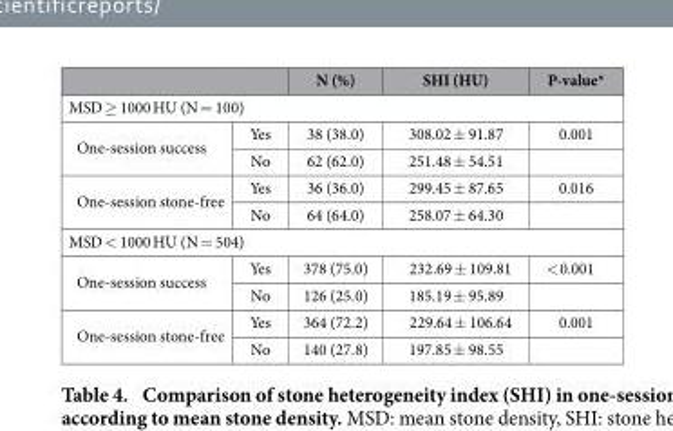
<table><thead><tr><td></td><td></td><td>N (%)</td><td>SHI (HU)</td><td>P-value*</td></tr></thead><tbody><tr><td colspan="5">MSD ≥ 1000 HU (N = 100)</td></tr><tr><td rowspan="2">One-session success</td><td>Yes</td><td>38 (38.0)</td><td>308.02 ± 91.87</td><td>0.001</td></tr><tr><td>No</td><td>62 (62.0)</td><td>251.48 ± 54.51</td><td></td></tr><tr><td rowspan="2">One-session stone-free</td><td>Yes</td><td>36 (36.0)</td><td>299.45 ± 87.65</td><td>0.016</td></tr><tr><td>No</td><td>64 (64.0)</td><td>258.07 ± 64.30</td><td></td></tr><tr><td colspan="5">MSD &lt; 1000 HU (N = 504)</td></tr><tr><td rowspan="2">One-session success</td><td>Yes</td><td>378 (75.0)</td><td>232.69 ± 109.81</td><td>&lt; 0.001</td></tr><tr><td>No</td><td>126 (25.0)</td><td>185.19 ± 95.89</td><td></td></tr><tr><td rowspan="2">One-session stone-free</td><td>Yes</td><td>364 (72.2)</td><td>229.64 ± 106.64</td><td>0.001</td></tr><tr><td>No</td><td>140 (27.8)</td><td>197.85 ± 98.55</td><td></td></tr></tbody></table>